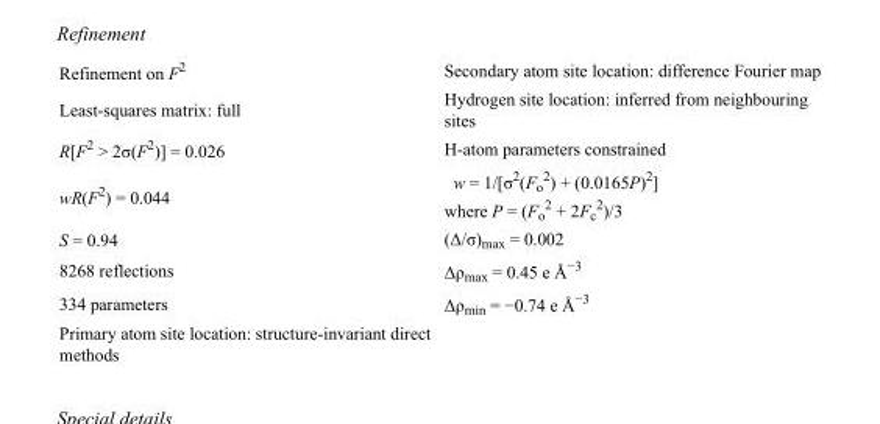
<table><tbody><tr><td>Refinement on F<sup>2</sup></td><td>Secondary atom site location: difference Fourier map</td></tr><tr><td>Least-squares matrix: full</td><td>Hydrogen site location: inferred from neighbouring sites</td></tr><tr><td>R[F<sup>2</sup> &gt; 2σ(F<sup>2</sup>)] = 0.026</td><td>H-atom parameters constrained</td></tr><tr><td>wR(F<sup>2</sup>) = 0.044</td><td>w = 1/[σ<sup>2</sup>(F<sub>o</sub> <sup>2</sup>) + (0.0165P)<sup>2</sup>] where P = (F<sub>o</sub> <sup>2</sup> + 2F<sub>c</sub> <sup>2</sup>)/3</td></tr><tr><td>S = 0.94</td><td>(Δ/σ)<sub>max</sub> = 0.002</td></tr><tr><td>8268 reflections</td><td>Δρ<sub>max</sub> = 0.45 e Å<sup>−3</sup></td></tr><tr><td>334 parameters</td><td>Δρ<sub>min</sub> = −0.74 e Å<sup>−3</sup></td></tr><tr><td>Primary atom site location: structure-invariant direct methods</td><td></td></tr></tbody></table>